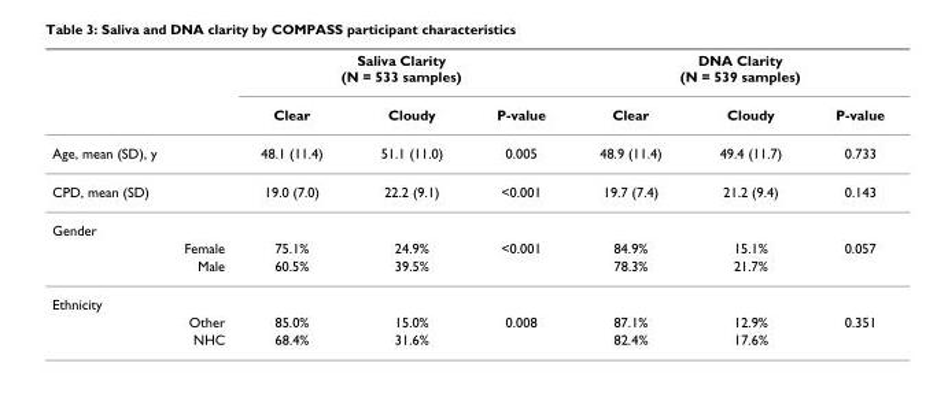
<table><thead><tr><td rowspan="2"></td><td colspan="3">Saliva Clarity (N = 533 samples)</td><td colspan="3">DNA Clarity (N = 539 samples)</td></tr><tr><td>Clear</td><td>Cloudy</td><td>P-value</td><td>Clear</td><td>Cloudy</td><td>P-value</td></tr></thead><tbody><tr><td>Age, mean (SD), y</td><td>48.1 (11.4)</td><td>51.1 (11.0)</td><td>0.005</td><td>48.9 (11.4)</td><td>49.4 (11.7)</td><td>0.733</td></tr><tr><td>CPD, mean (SD)</td><td>19.0 (7.0)</td><td>22.2 (9.1)</td><td>&lt;0.001</td><td>19.7 (7.4)</td><td>21.2 (9.4)</td><td>0.143</td></tr><tr><td colspan="7">Gender</td></tr><tr><td>Female</td><td>75.1%</td><td>24.9%</td><td>&lt;0.001</td><td>84.9%</td><td>15.1%</td><td>0.057</td></tr><tr><td>Male</td><td>60.5%</td><td>39.5%</td><td></td><td>78.3%</td><td>21.7%</td><td></td></tr><tr><td colspan="7">Ethnicity</td></tr><tr><td>Other</td><td>85.0%</td><td>15.0%</td><td>0.008</td><td>87.1%</td><td>12.9%</td><td>0.351</td></tr><tr><td>NHC</td><td>68.4%</td><td>31.6%</td><td></td><td>82.4%</td><td>17.6%</td><td></td></tr></tbody></table>